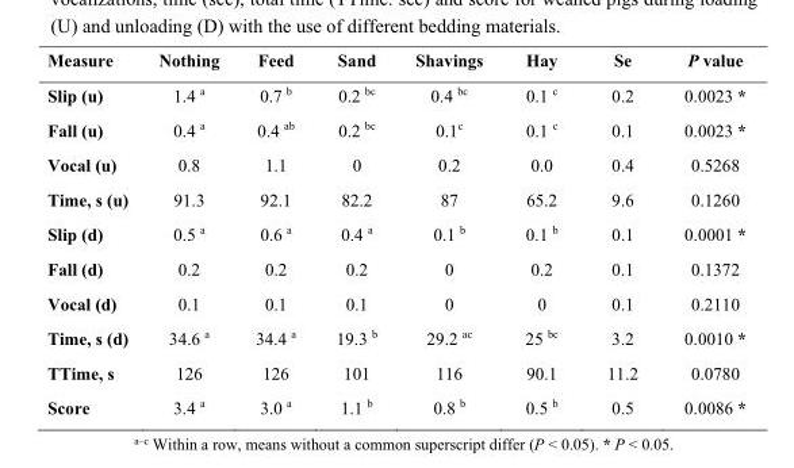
<table><thead><tr><td>Measure</td><td>Nothing</td><td>Feed</td><td>Sand</td><td>Shavings</td><td>Hay</td><td>Se</td><td>P value</td></tr></thead><tbody><tr><td>Slip (u)</td><td>1.4 <sup>a</sup></td><td>0.7 <sup>b</sup></td><td>0.2 <sup>bc</sup></td><td>0.4 <sup>bc</sup></td><td>0.1 <sup>c</sup></td><td>0.2</td><td>0.0023 *</td></tr><tr><td>Fall (u)</td><td>0.4 <sup>a</sup></td><td>0.4 <sup>ab</sup></td><td>0.2 <sup>bc</sup></td><td>0.1<sup>c</sup></td><td>0.1 <sup>c</sup></td><td>0.1</td><td>0.0023 *</td></tr><tr><td>Vocal (u)</td><td>0.8</td><td>1.1</td><td>0</td><td>0.2</td><td>0.0</td><td>0.4</td><td>0.5268</td></tr><tr><td>Time, s (u)</td><td>91.3</td><td>92.1</td><td>82.2</td><td>87</td><td>65.2</td><td>9.6</td><td>0.1260</td></tr><tr><td>Slip (d)</td><td>0.5 <sup>a</sup></td><td>0.6 <sup>a</sup></td><td>0.4 <sup>a</sup></td><td>0.1 <sup>b</sup></td><td>0.1 <sup>b</sup></td><td>0.1</td><td>0.0001 *</td></tr><tr><td>Fall (d)</td><td>0.2</td><td>0.2</td><td>0.2</td><td>0</td><td>0.2</td><td>0.1</td><td>0.1372</td></tr><tr><td>Vocal (d)</td><td>0.1</td><td>0.1</td><td>0.1</td><td>0</td><td>0</td><td>0.1</td><td>0.2110</td></tr><tr><td>Time, s (d)</td><td>34.6 <sup>a</sup></td><td>34.4 <sup>a</sup></td><td>19.3 <sup>b</sup></td><td>29.2 <sup>ac</sup></td><td>25 <sup>bc</sup></td><td>3.2</td><td>0.0010 *</td></tr><tr><td>TTime, s</td><td>126</td><td>126</td><td>101</td><td>116</td><td>90.1</td><td>11.2</td><td>0.0780</td></tr><tr><td>Score</td><td>3.4 <sup>a</sup></td><td>3.0 <sup>a</sup></td><td>1.1 <sup>b</sup></td><td>0.8 <sup>b</sup></td><td>0.5 <sup>b</sup></td><td>0.5</td><td>0.0086 *</td></tr></tbody></table>